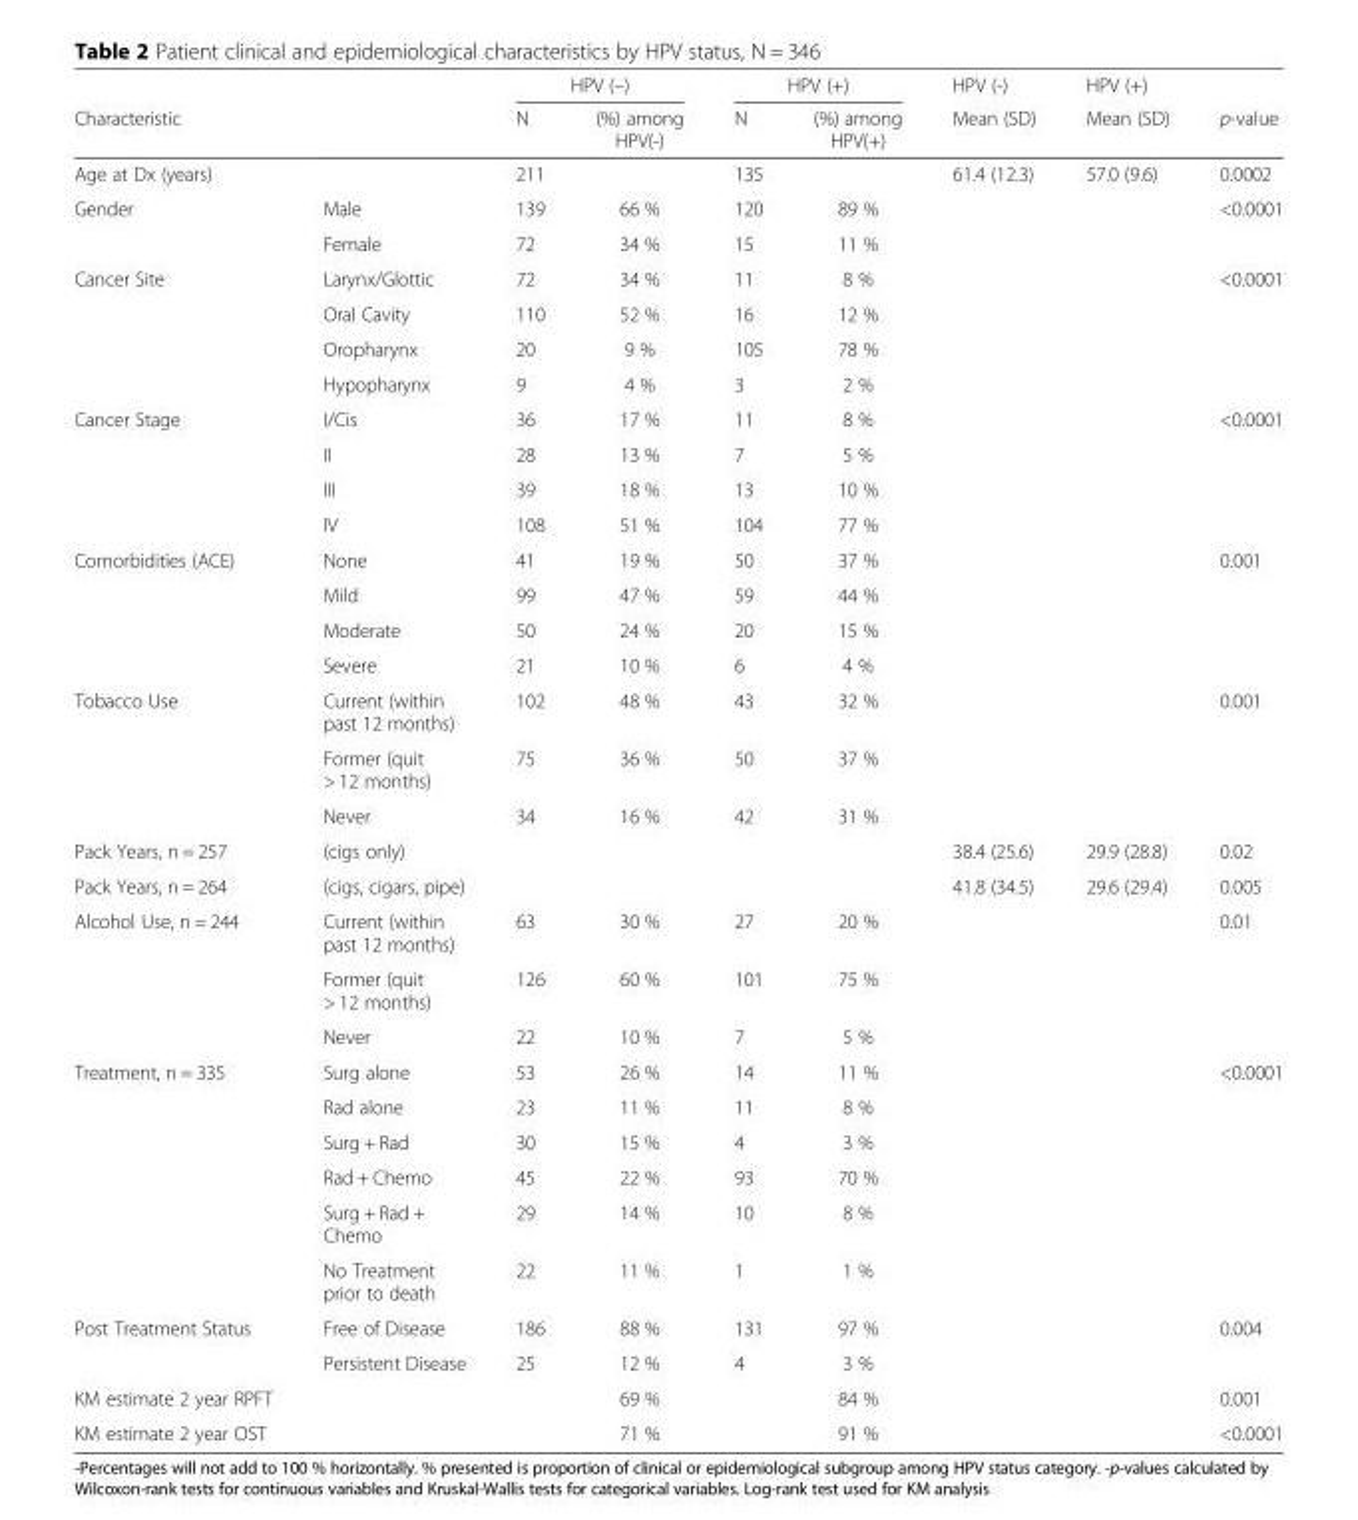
<table><thead><tr><td rowspan="2">Characteristic</td><td rowspan="2"></td><td colspan="2">HPV (–)</td><td colspan="2">HPV (+)</td><td rowspan="2">HPV (-) Mean (SD)</td><td rowspan="2">HPV (+) Mean (SD)</td><td rowspan="2">p-value</td></tr><tr><td>N</td><td>(%) among HPV(-)</td><td>N</td><td>(%) among HPV(+)</td></tr></thead><tbody><tr><td>Age at Dx (years)</td><td></td><td>211</td><td></td><td>135</td><td></td><td>61.4 (12.3)</td><td>57.0 (9.6)</td><td>0.0002</td></tr><tr><td rowspan="2">Gender</td><td>Male</td><td>139</td><td>66 %</td><td>120</td><td>89 %</td><td></td><td></td><td>&lt;0.0001</td></tr><tr><td>Female</td><td>72</td><td>34 %</td><td>15</td><td>11 %</td><td></td><td></td><td></td></tr><tr><td rowspan="4">Cancer Site</td><td>Larynx/Glottic</td><td>72</td><td>34 %</td><td>11</td><td>8 %</td><td></td><td></td><td>&lt;0.0001</td></tr><tr><td>Oral Cavity</td><td>110</td><td>52 %</td><td>16</td><td>12 %</td><td></td><td></td><td></td></tr><tr><td>Oropharynx</td><td>20</td><td>9 %</td><td>105</td><td>78 %</td><td></td><td></td><td></td></tr><tr><td>Hypopharynx</td><td>9</td><td>4 %</td><td>3</td><td>2 %</td><td></td><td></td><td></td></tr><tr><td rowspan="4">Cancer Stage</td><td>I/Cis</td><td>36</td><td>17 %</td><td>11</td><td>8 %</td><td></td><td></td><td>&lt;0.0001</td></tr><tr><td>II</td><td>28</td><td>13 %</td><td>7</td><td>5 %</td><td></td><td></td><td></td></tr><tr><td>III</td><td>39</td><td>18 %</td><td>13</td><td>10 %</td><td></td><td></td><td></td></tr><tr><td>IV</td><td>108</td><td>51 %</td><td>104</td><td>77 %</td><td></td><td></td><td></td></tr><tr><td rowspan="4">Comorbidities (ACE)</td><td>None</td><td>41</td><td>19 %</td><td>50</td><td>37 %</td><td></td><td></td><td>0.001</td></tr><tr><td>Mild</td><td>99</td><td>47 %</td><td>59</td><td>44 %</td><td></td><td></td><td></td></tr><tr><td>Moderate</td><td>50</td><td>24 %</td><td>20</td><td>15 %</td><td></td><td></td><td></td></tr><tr><td>Severe</td><td>21</td><td>10 %</td><td>6</td><td>4 %</td><td></td><td></td><td></td></tr><tr><td rowspan="3">Tobacco Use</td><td>Current (within past 12 months)</td><td>102</td><td>48 %</td><td>43</td><td>32 %</td><td></td><td></td><td>0.001</td></tr><tr><td>Former (quit &gt; 12 months)</td><td>75</td><td>36 %</td><td>50</td><td>37 %</td><td></td><td></td><td></td></tr><tr><td>Never</td><td>34</td><td>16 %</td><td>42</td><td>31 %</td><td></td><td></td><td></td></tr><tr><td>Pack Years, n = 257</td><td>(cigs only)</td><td></td><td></td><td></td><td></td><td>38.4 (25.6)</td><td>29.9 (28.8)</td><td>0.02</td></tr><tr><td>Pack Years, n = 264</td><td>(cigs, cigars, pipe)</td><td></td><td></td><td></td><td></td><td>41.8 (34.5)</td><td>29.6 (29.4)</td><td>0.005</td></tr><tr><td rowspan="3">Alcohol Use, n = 244</td><td>Current (within past 12 months)</td><td>63</td><td>30 %</td><td>27</td><td>20 %</td><td></td><td></td><td>0.01</td></tr><tr><td>Former (quit &gt; 12 months)</td><td>126</td><td>60 %</td><td>101</td><td>75 %</td><td></td><td></td><td></td></tr><tr><td>Never</td><td>22</td><td>10 %</td><td>7</td><td>5 %</td><td></td><td></td><td></td></tr><tr><td rowspan="6">Treatment, n = 335</td><td>Surg alone</td><td>53</td><td>26 %</td><td>14</td><td>11 %</td><td></td><td></td><td>&lt;0.0001</td></tr><tr><td>Rad alone</td><td>23</td><td>11 %</td><td>11</td><td>8 %</td><td></td><td></td><td></td></tr><tr><td>Surg + Rad</td><td>30</td><td>15 %</td><td>4</td><td>3 %</td><td></td><td></td><td></td></tr><tr><td>Rad + Chemo</td><td>45</td><td>22 %</td><td>93</td><td>70 %</td><td></td><td></td><td></td></tr><tr><td>Surg + Rad + Chemo</td><td>29</td><td>14 %</td><td>10</td><td>8 %</td><td></td><td></td><td></td></tr><tr><td>No Treatment prior to death</td><td>22</td><td>11 %</td><td>1</td><td>1 %</td><td></td><td></td><td></td></tr><tr><td rowspan="2">Post Treatment Status</td><td>Free of Disease</td><td>186</td><td>88 %</td><td>131</td><td>97 %</td><td></td><td></td><td>0.004</td></tr><tr><td>Persistent Disease</td><td>25</td><td>12 %</td><td>4</td><td>3 %</td><td></td><td></td><td></td></tr><tr><td>KM estimate 2 year RPFT</td><td></td><td></td><td>69 %</td><td></td><td>84 %</td><td></td><td></td><td>0.001</td></tr><tr><td>KM estimate 2 year OST</td><td></td><td></td><td>71 %</td><td></td><td>91 %</td><td></td><td></td><td>&lt;0.0001</td></tr></tbody></table>